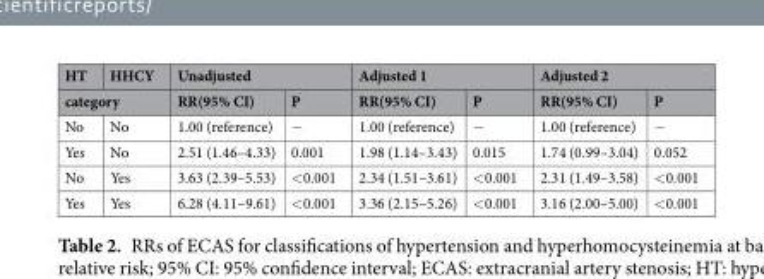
<table><thead><tr><td>HT</td><td>HHCY</td><td colspan="2">Unadjusted</td><td colspan="2">Adjusted 1</td><td colspan="2">Adjusted 2</td></tr><tr><td colspan="2">category</td><td>RR(95% CI)</td><td>P</td><td>RR(95% CI)</td><td>P</td><td>RR(95% CI)</td><td>P</td></tr></thead><tbody><tr><td>No</td><td>No</td><td>1.00 (reference)</td><td>−</td><td>1.00 (reference)</td><td>−</td><td>1.00 (reference)</td><td>−</td></tr><tr><td>Yes</td><td>No</td><td>2.51 (1.46–4.33)</td><td>0.001</td><td>1.98 (1.14–3.43)</td><td>0.015</td><td>1.74 (0.99–3.04)</td><td>0.052</td></tr><tr><td>No</td><td>Yes</td><td>3.63 (2.39–5.53)</td><td>&lt;0.001</td><td>2.34 (1.51–3.61)</td><td>&lt;0.001</td><td>2.31 (1.49–3.58)</td><td>&lt;0.001</td></tr><tr><td>Yes</td><td>Yes</td><td>6.28 (4.11–9.61)</td><td>&lt;0.001</td><td>3.36 (2.15–5.26)</td><td>&lt;0.001</td><td>3.16 (2.00–5.00)</td><td>&lt;0.001</td></tr></tbody></table>